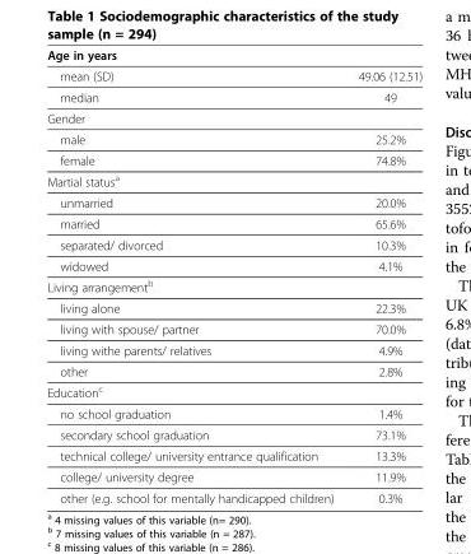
<table><thead><tr><td colspan="2">Age in years</td></tr><tr><td>mean (SD)</td><td>49.06 (12.51)</td></tr></thead><tbody><tr><td>median</td><td>49</td></tr><tr><td colspan="2">Gender</td></tr><tr><td>male</td><td>25.2%</td></tr><tr><td>female</td><td>74.8%</td></tr><tr><td colspan="2">Martial status<sup>a</sup></td></tr><tr><td>unmarried</td><td>20.0%</td></tr><tr><td>married</td><td>65.6%</td></tr><tr><td>separated/ divorced</td><td>10.3%</td></tr><tr><td>widowed</td><td>4.1%</td></tr><tr><td colspan="2">Living arrangement<sup>b</sup></td></tr><tr><td>living alone</td><td>22.3%</td></tr><tr><td>living with spouse/ partner</td><td>70.0%</td></tr><tr><td>living withe parents/ relatives</td><td>4.9%</td></tr><tr><td>other</td><td>2.8%</td></tr><tr><td colspan="2">Education<sup>c</sup></td></tr><tr><td>no school graduation</td><td>1.4%</td></tr><tr><td>secondary school graduation</td><td>73.1%</td></tr><tr><td>technical college/ university entrance qualification</td><td>13.3%</td></tr><tr><td>college/ university degree</td><td>11.9%</td></tr><tr><td>other (e.g. school for mentally handicapped children)</td><td>0.3%</td></tr></tbody></table>